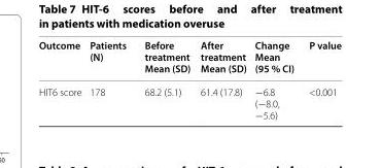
<table><thead><tr><td>Outcome</td><td>Patients (N)</td><td>Before treatment Mean (SD)</td><td>After treatment Mean (SD)</td><td>Change Mean (95 % CI)</td><td>P value</td></tr></thead><tbody><tr><td>HIT6 score</td><td>178</td><td>68.2 (5.1)</td><td>61.4 (17.8)</td><td>−6.8 (−8.0, −5.6)</td><td>&lt;0.001</td></tr></tbody></table>